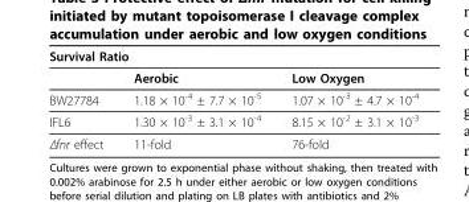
<table><thead><tr><td colspan="3">Survival Ratio</td></tr><tr><td></td><td>Aerobic</td><td>Low Oxygen</td></tr></thead><tbody><tr><td>BW27784</td><td>1.18 × 10<sup>-4</sup> ± 7.7 × 10<sup>-5</sup></td><td>1.07 × 10<sup>-3</sup> ± 4.7 × 10<sup>-4</sup></td></tr><tr><td>IFL6</td><td>1.30 × 10<sup>-3</sup> ± 3.1 × 10<sup>-4</sup></td><td>8.15 × 10<sup>-2</sup> ± 3.1 × 10<sup>-3</sup></td></tr><tr><td>Δfnr effect</td><td>11-fold</td><td>76-fold</td></tr></tbody></table>